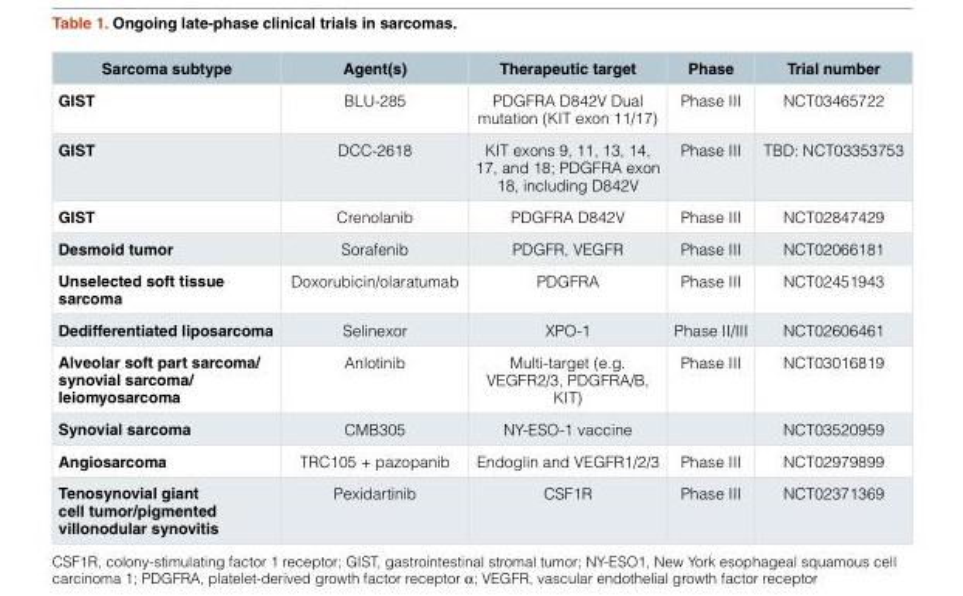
<table><thead><tr><td>Sarcoma subtype</td><td>Agent(s)</td><td>Therapeutic target</td><td>Phase</td><td>Trial number</td></tr></thead><tbody><tr><td>GIST</td><td>BLU-285</td><td>PDGFRA D842V Dual mutation (KIT exon 11/17)</td><td>Phase III</td><td>NCT03465722</td></tr><tr><td>GIST</td><td>DCC-2618</td><td>KIT exons 9, 11, 13, 14, 17, and 18; PDGFRA exon 18, including D842V</td><td>Phase III</td><td>TBD: NCT03353753</td></tr><tr><td>GIST</td><td>Crenolanib</td><td>PDGFRA D842V</td><td>Phase III</td><td>NCT02847429</td></tr><tr><td>Desmoid tumor</td><td>Sorafenib</td><td>PDGFR, VEGFR</td><td>Phase III</td><td>NCT02066181</td></tr><tr><td>Unselected soft tissue sarcoma</td><td>Doxorubicin/olaratumab</td><td>PDGFRA</td><td>Phase III</td><td>NCT02451943</td></tr><tr><td>Dedifferentiated liposarcoma</td><td>Selinexor</td><td>XPO-1</td><td>Phase II/III</td><td>NCT02606461</td></tr><tr><td>Alveolar soft part sarcoma/ synovial sarcoma/ leiomyosarcoma</td><td>Anlotinib</td><td>Multi-target (e.g. VEGFR2/3, PDGFRA/B, KIT)</td><td>Phase III</td><td>NCT03016819</td></tr><tr><td>Synovial sarcoma</td><td>CMB305</td><td>NY-ESO-1 vaccine</td><td></td><td>NCT03520959</td></tr><tr><td>Angiosarcoma</td><td>TRC105 + pazopanib</td><td>Endoglin and VEGFR1/2/3</td><td>Phase III</td><td>NCT02979899</td></tr><tr><td>Tenosynovial giant cell tumor/pigmented villonodular synovitis</td><td>Pexidartinib</td><td>CSF1R</td><td>Phase III</td><td>NCT02371369</td></tr></tbody></table>